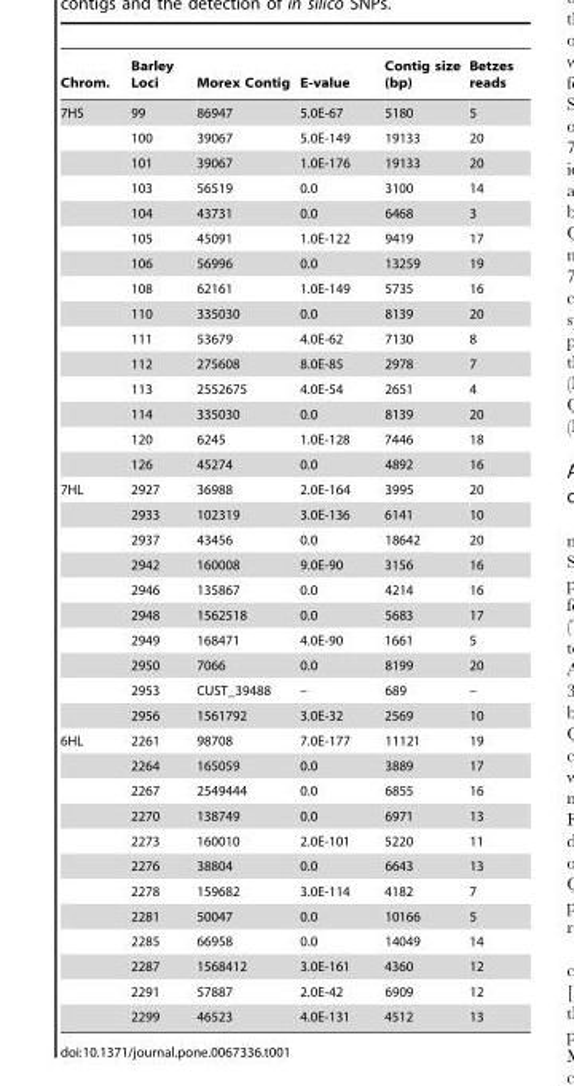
<table><thead><tr><td>Chrom.</td><td>Barley Loci</td><td>Morex Contig</td><td>E-value</td><td>Contig size (bp)</td><td>Betzes reads</td></tr></thead><tbody><tr><td rowspan="15">7HS</td><td>99</td><td>86947</td><td>5.0E-67</td><td>5180</td><td>5</td></tr><tr><td>100</td><td>39067</td><td>5.0E-149</td><td>19133</td><td>20</td></tr><tr><td>101</td><td>39067</td><td>1.0E-176</td><td>19133</td><td>20</td></tr><tr><td>103</td><td>56519</td><td>0.0</td><td>3100</td><td>14</td></tr><tr><td>104</td><td>43731</td><td>0.0</td><td>6468</td><td>3</td></tr><tr><td>105</td><td>45091</td><td>1.0E-122</td><td>9419</td><td>17</td></tr><tr><td>106</td><td>56996</td><td>0.0</td><td>13259</td><td>19</td></tr><tr><td>108</td><td>62161</td><td>1.0E-149</td><td>5735</td><td>16</td></tr><tr><td>110</td><td>335030</td><td>0.0</td><td>8139</td><td>20</td></tr><tr><td>111</td><td>53679</td><td>4.0E-62</td><td>7130</td><td>8</td></tr><tr><td>112</td><td>275608</td><td>8.0E-85</td><td>2978</td><td>7</td></tr><tr><td>113</td><td>2552675</td><td>4.0E-54</td><td>2651</td><td>4</td></tr><tr><td>114</td><td>335030</td><td>0.0</td><td>8139</td><td>20</td></tr><tr><td>120</td><td>6245</td><td>1.0E-128</td><td>7446</td><td>18</td></tr><tr><td>126</td><td>45274</td><td>0.0</td><td>4892</td><td>16</td></tr><tr><td rowspan="10">7HL</td><td>2927</td><td>36988</td><td>2.0E-164</td><td>3995</td><td>20</td></tr><tr><td>2933</td><td>102319</td><td>3.0E-136</td><td>6141</td><td>10</td></tr><tr><td>2937</td><td>43456</td><td>0.0</td><td>18642</td><td>20</td></tr><tr><td>2942</td><td>160008</td><td>9.0E-90</td><td>3156</td><td>16</td></tr><tr><td>2946</td><td>135867</td><td>0.0</td><td>4214</td><td>16</td></tr><tr><td>2948</td><td>1562518</td><td>0.0</td><td>5683</td><td>17</td></tr><tr><td>2949</td><td>168471</td><td>4.0E-90</td><td>1661</td><td>5</td></tr><tr><td>2950</td><td>7066</td><td>0.0</td><td>8199</td><td>20</td></tr><tr><td>2953</td><td>CUST_39488</td><td>–</td><td>689</td><td>–</td></tr><tr><td>2956</td><td>1561792</td><td>3.0E-32</td><td>2569</td><td>10</td></tr><tr><td rowspan="12">6HL</td><td>2261</td><td>98708</td><td>7.0E-177</td><td>11121</td><td>19</td></tr><tr><td>2264</td><td>165059</td><td>0.0</td><td>3889</td><td>17</td></tr><tr><td>2267</td><td>2549444</td><td>0.0</td><td>6855</td><td>16</td></tr><tr><td>2270</td><td>138749</td><td>0.0</td><td>6971</td><td>13</td></tr><tr><td>2273</td><td>160010</td><td>2.0E-101</td><td>5220</td><td>11</td></tr><tr><td>2276</td><td>38804</td><td>0.0</td><td>6643</td><td>13</td></tr><tr><td>2278</td><td>159682</td><td>3.0E-114</td><td>4182</td><td>7</td></tr><tr><td>2281</td><td>50047</td><td>0.0</td><td>10166</td><td>5</td></tr><tr><td>2285</td><td>66958</td><td>0.0</td><td>14049</td><td>14</td></tr><tr><td>2287</td><td>1568412</td><td>3.0E-161</td><td>4360</td><td>12</td></tr><tr><td>2291</td><td>57887</td><td>2.0E-42</td><td>6909</td><td>12</td></tr><tr><td>2299</td><td>46523</td><td>4.0E-131</td><td>4512</td><td>13</td></tr></tbody></table>